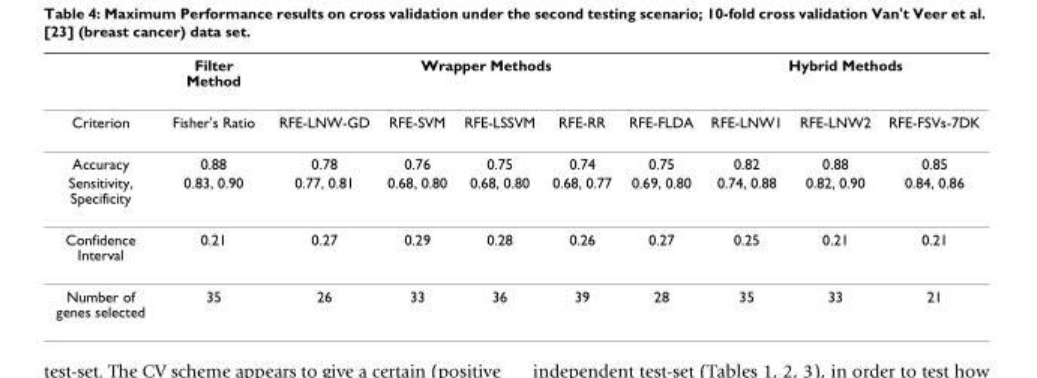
<table><thead><tr><td rowspan="2">Criterion</td><td rowspan="2">Filter Method Fisher&#x27;s Ratio</td><td colspan="5">Wrapper Methods</td><td colspan="3">Hybrid Methods</td></tr><tr><td>RFE-LNW-GD</td><td>RFE-SVM</td><td>RFE-LSSVM</td><td>RFE-RR</td><td>RFE-FLDA</td><td>RFE-LNW1</td><td>RFE-LNW2</td><td>RFE-FSVs-7DK</td></tr></thead><tbody><tr><td>Accuracy</td><td>0.88</td><td>0.78</td><td>0.76</td><td>0.75</td><td>0.74</td><td>0.75</td><td>0.82</td><td>0.88</td><td>0.85</td></tr><tr><td>Sensitivity, Specificity</td><td>0.83, 0.90</td><td>0.77, 0.81</td><td>0.68, 0.80</td><td>0.68, 0.80</td><td>0.68, 0.77</td><td>0.69, 0.80</td><td>0.74, 0.88</td><td>0.82, 0.90</td><td>0.84, 0.86</td></tr><tr><td>Confidence Interval</td><td>0.21</td><td>0.27</td><td>0.29</td><td>0.28</td><td>0.26</td><td>0.27</td><td>0.25</td><td>0.21</td><td>0.21</td></tr><tr><td>Number of genes selected</td><td>35</td><td>26</td><td>33</td><td>36</td><td>39</td><td>28</td><td>35</td><td>33</td><td>21</td></tr></tbody></table>